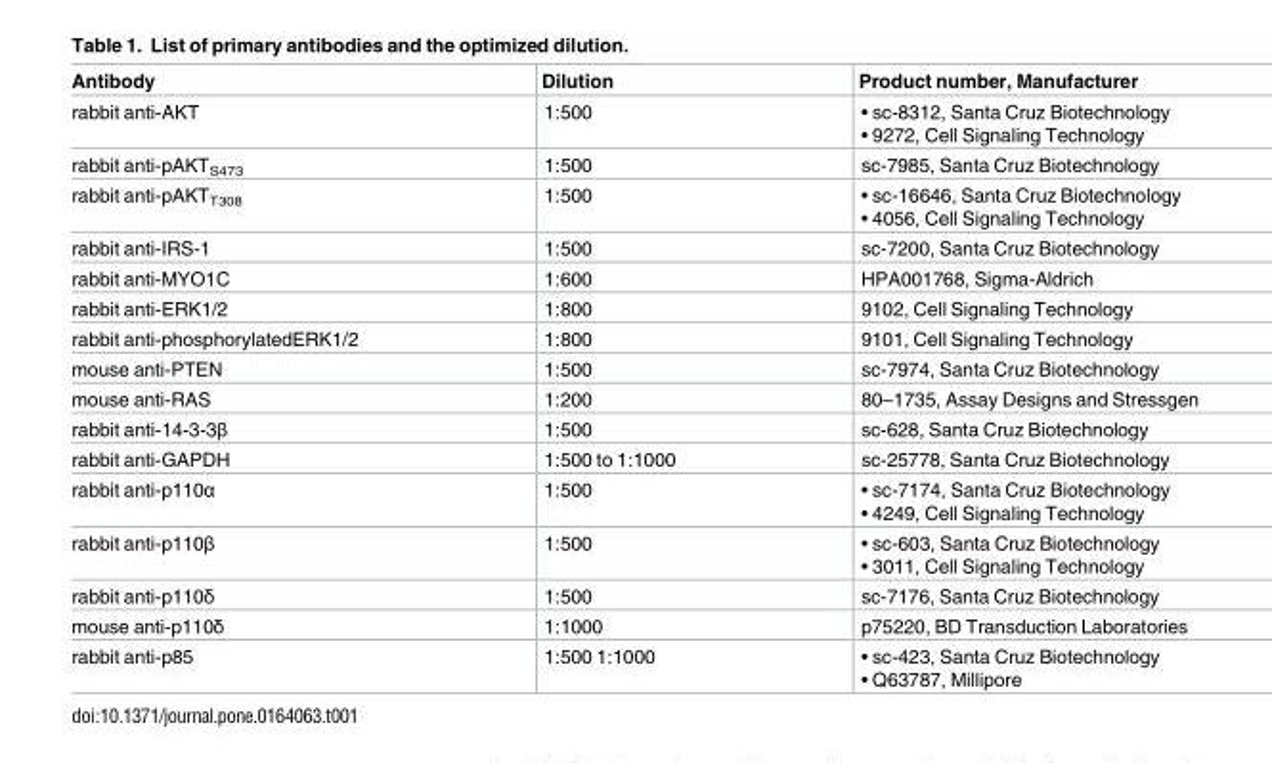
<table><thead><tr><td>Antibody</td><td>Dilution</td><td>Product number, Manufacturer</td></tr></thead><tbody><tr><td>rabbit anti-AKT</td><td>1:500</td><td>• sc-8312, Santa Cruz Biotechnology • 9272, Cell Signaling Technology</td></tr><tr><td>rabbit anti-pAKT<sub>S473</sub></td><td>1:500</td><td>sc-7985, Santa Cruz Biotechnology</td></tr><tr><td>rabbit anti-pAKT<sub>T308</sub></td><td>1:500</td><td>• sc-16646, Santa Cruz Biotechnology • 4056, Cell Signaling Technology</td></tr><tr><td>rabbit anti-IRS-1</td><td>1:500</td><td>sc-7200, Santa Cruz Biotechnology</td></tr><tr><td>rabbit anti-MYO1C</td><td>1:600</td><td>HPA001768, Sigma-Aldrich</td></tr><tr><td>rabbit anti-ERK1/2</td><td>1:800</td><td>9102, Cell Signaling Technology</td></tr><tr><td>rabbit anti-phosphorylatedERK1/2</td><td>1:800</td><td>9101, Cell Signaling Technology</td></tr><tr><td>mouse anti-PTEN</td><td>1:500</td><td>sc-7974, Santa Cruz Biotechnology</td></tr><tr><td>mouse anti-RAS</td><td>1:200</td><td>80–1735, Assay Designs and Stressgen</td></tr><tr><td>rabbit anti-14-3-3β</td><td>1:500</td><td>sc-628, Santa Cruz Biotechnology</td></tr><tr><td>rabbit anti-GAPDH</td><td>1:500 to 1:1000</td><td>sc-25778, Santa Cruz Biotechnology</td></tr><tr><td>rabbit anti-p110α</td><td>1:500</td><td>• sc-7174, Santa Cruz Biotechnology • 4249, Cell Signaling Technology</td></tr><tr><td>rabbit anti-p110β</td><td>1:500</td><td>• sc-603, Santa Cruz Biotechnology • 3011, Cell Signaling Technology</td></tr><tr><td>rabbit anti-p110δ</td><td>1:500</td><td>sc-7176, Santa Cruz Biotechnology</td></tr><tr><td>mouse anti-p110δ</td><td>1:1000</td><td>p75220, BD Transduction Laboratories</td></tr><tr><td>rabbit anti-p85</td><td>1:500 1:1000</td><td>• sc-423, Santa Cruz Biotechnology • Q63787, Millipore</td></tr></tbody></table>